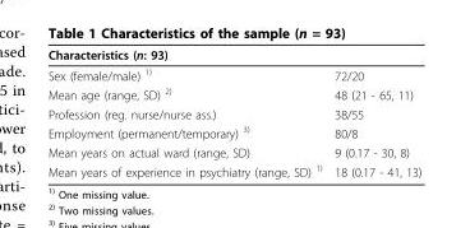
<table><thead><tr><td>Characteristics (n: 93)</td><td></td></tr></thead><tbody><tr><td>Sex (female/male) <sup>1)</sup></td><td>72/20</td></tr><tr><td>Mean age (range, SD) <sup>2)</sup></td><td>48 (21 - 65, 11)</td></tr><tr><td>Profession (reg. nurse/nurse ass.)</td><td>38/55</td></tr><tr><td>Employment (permanent/temporary) <sup>3)</sup></td><td>80/8</td></tr><tr><td>Mean years on actual ward (range, SD)</td><td>9 (0.17 - 30, 8)</td></tr><tr><td>Mean years of experience in psychiatry (range, SD) <sup>1)</sup></td><td>18 (0.17 - 41, 13)</td></tr></tbody></table>